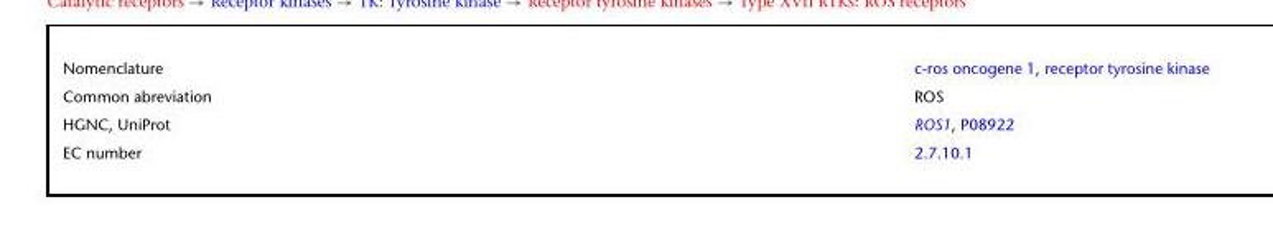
<table><tbody><tr><td>Nomenclature</td><td>c-ros oncogene 1, receptor tyrosine kinase</td></tr><tr><td>Common abreviation</td><td>ROS</td></tr><tr><td>HGNC, UniProt</td><td>ROS1, P08922</td></tr><tr><td>EC number</td><td>2.7.10.1</td></tr></tbody></table>